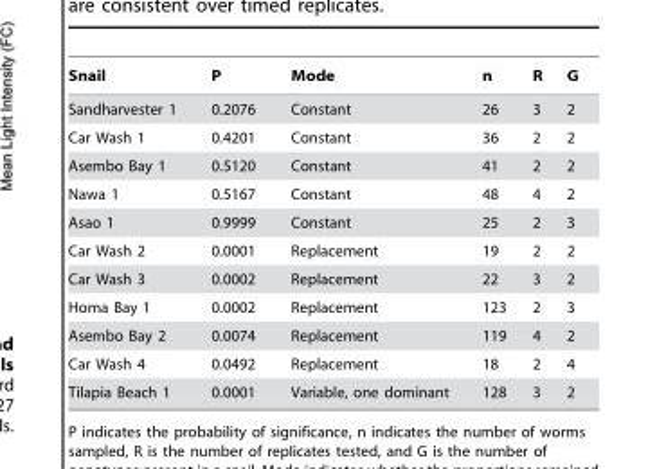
<table><thead><tr><td>Snail</td><td>P</td><td>Mode</td><td>n</td><td>R</td><td>G</td></tr></thead><tbody><tr><td>Sandharvester 1</td><td>0.2076</td><td>Constant</td><td>26</td><td>3</td><td>2</td></tr><tr><td>Car Wash 1</td><td>0.4201</td><td>Constant</td><td>36</td><td>2</td><td>2</td></tr><tr><td>Asembo Bay 1</td><td>0.5120</td><td>Constant</td><td>41</td><td>2</td><td>2</td></tr><tr><td>Nawa 1</td><td>0.5167</td><td>Constant</td><td>48</td><td>4</td><td>2</td></tr><tr><td>Asao 1</td><td>0.9999</td><td>Constant</td><td>25</td><td>2</td><td>3</td></tr><tr><td>Car Wash 2</td><td>0.0001</td><td>Replacement</td><td>19</td><td>2</td><td>2</td></tr><tr><td>Car Wash 3</td><td>0.0002</td><td>Replacement</td><td>22</td><td>3</td><td>2</td></tr><tr><td>Homa Bay 1</td><td>0.0002</td><td>Replacement</td><td>123</td><td>2</td><td>3</td></tr><tr><td>Asembo Bay 2</td><td>0.0074</td><td>Replacement</td><td>119</td><td>4</td><td>2</td></tr><tr><td>Car Wash 4</td><td>0.0492</td><td>Replacement</td><td>18</td><td>2</td><td>4</td></tr><tr><td>Tilapia Beach 1</td><td>0.0001</td><td>Variable, one dominant</td><td>128</td><td>3</td><td>2</td></tr></tbody></table>